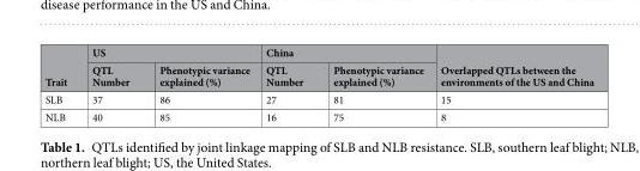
<table><thead><tr><td rowspan="2">Trait</td><td colspan="2">US</td><td colspan="2">China</td><td rowspan="2">Overlapped QTLs between the environments of the US and China</td></tr><tr><td>QTL Number</td><td>Phenotypic variance explained (%)</td><td>QTL Number</td><td>Phenotypic variance explained (%)</td></tr></thead><tbody><tr><td>SLB</td><td>37</td><td>86</td><td>27</td><td>81</td><td>15</td></tr><tr><td>NLB</td><td>40</td><td>85</td><td>16</td><td>75</td><td>8</td></tr></tbody></table>